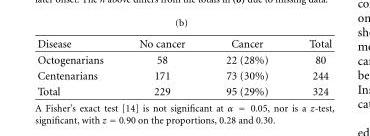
<table><thead><tr><td>Disease</td><td>No cancer</td><td>Cancer</td><td>Total</td></tr></thead><tbody><tr><td>Octogenarians</td><td>58</td><td>22 (28%)</td><td>80</td></tr><tr><td>Centenarians</td><td>171</td><td>73 (30%)</td><td>244</td></tr><tr><td>Total</td><td>229</td><td>95 (29%)</td><td>324</td></tr></tbody></table>